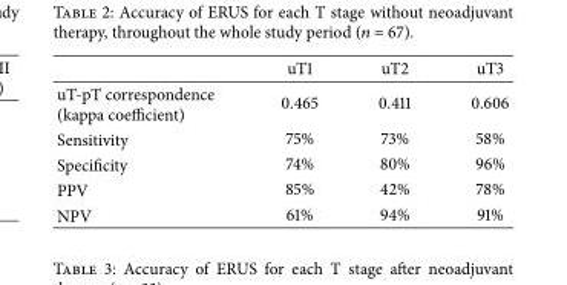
<table><thead><tr><td></td><td>uT1</td><td>uT2</td><td>uT3</td></tr></thead><tbody><tr><td>uT-pT correspondence (kappa coefficient)</td><td>0.465</td><td>0.411</td><td>0.606</td></tr><tr><td>Sensitivity</td><td>75%</td><td>73%</td><td>58%</td></tr><tr><td>Specificity</td><td>74%</td><td>80%</td><td>96%</td></tr><tr><td>PPV</td><td>85%</td><td>42%</td><td>78%</td></tr><tr><td>NPV</td><td>61%</td><td>94%</td><td>91%</td></tr></tbody></table>